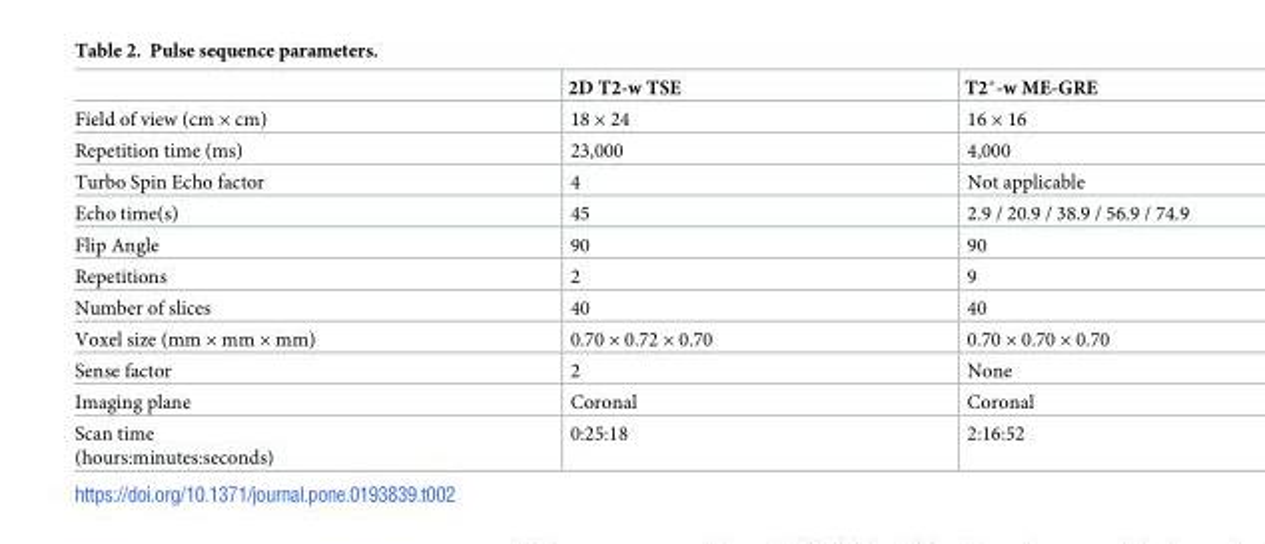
<table><thead><tr><td></td><td>2D T2-w TSE</td><td>T2*-w ME-GRE</td></tr></thead><tbody><tr><td>Field of view (cm × cm)</td><td>18 × 24</td><td>16 × 16</td></tr><tr><td>Repetition time (ms)</td><td>23,000</td><td>4,000</td></tr><tr><td>Turbo Spin Echo factor</td><td>4</td><td>Not applicable</td></tr><tr><td>Echo time(s)</td><td>45</td><td>2.9 / 20.9 / 38.9 / 56.9 / 74.9</td></tr><tr><td>Flip Angle</td><td>90</td><td>90</td></tr><tr><td>Repetitions</td><td>2</td><td>9</td></tr><tr><td>Number of slices</td><td>40</td><td>40</td></tr><tr><td>Voxel size (mm × mm × mm)</td><td>0.70 × 0.72 × 0.70</td><td>0.70 × 0.70 × 0.70</td></tr><tr><td>Sense factor</td><td>2</td><td>None</td></tr><tr><td>Imaging plane</td><td>Coronal</td><td>Coronal</td></tr><tr><td>Scan time (hours:minutes:seconds)</td><td>0:25:18</td><td>2:16:52</td></tr></tbody></table>